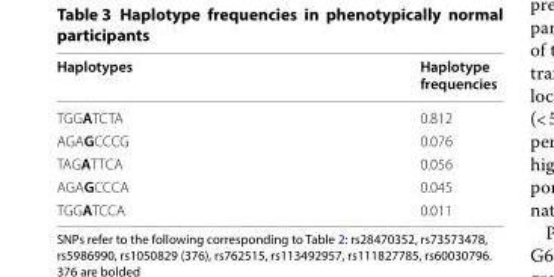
<table><thead><tr><td>Haplotypes</td><td>Haplotype frequencies</td></tr></thead><tbody><tr><td>TGG ATCTA</td><td>0.812</td></tr><tr><td>AGA GCCCG</td><td>0.076</td></tr><tr><td>TAG ATTCA</td><td>0.056</td></tr><tr><td>AGA GCCCA</td><td>0.045</td></tr><tr><td>TGG ATCCA</td><td>0.011</td></tr></tbody></table>